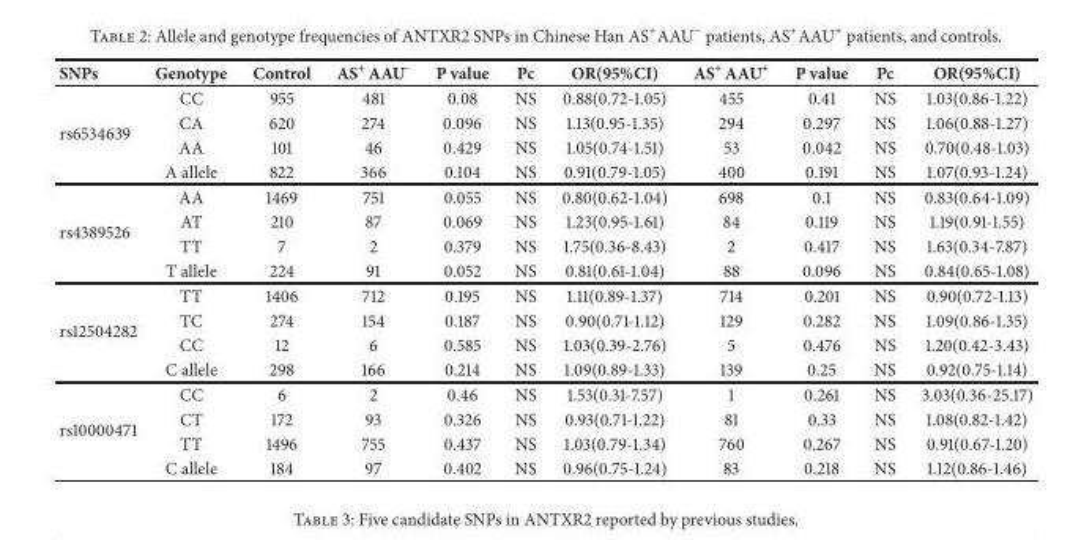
<table><thead><tr><td>SNPs</td><td>Genotype</td><td>Control</td><td>AS<sup>+</sup> AAU<sup>-</sup></td><td>P value</td><td>Pc</td><td>OR(95%CI)</td><td>AS<sup>+</sup> AAU<sup>+</sup></td><td>P value</td><td>Pc</td><td>OR(95%CI)</td></tr></thead><tbody><tr><td rowspan="4">rs6534639</td><td>CC</td><td>955</td><td>481</td><td>0.08</td><td>NS</td><td>0.88(0.72-1.05)</td><td>455</td><td>0.41</td><td>NS</td><td>1.03(0.86-1.22)</td></tr><tr><td>CA</td><td>620</td><td>274</td><td>0.096</td><td>NS</td><td>1.13(0.95-1.35)</td><td>294</td><td>0.297</td><td>NS</td><td>1.06(0.88-1.27)</td></tr><tr><td>AA</td><td>101</td><td>46</td><td>0.429</td><td>NS</td><td>1.05(0.74-1.51)</td><td>53</td><td>0.042</td><td>NS</td><td>0.70(0.48-1.03)</td></tr><tr><td>A allele</td><td>822</td><td>366</td><td>0.104</td><td>NS</td><td>0.91(0.79-1.05)</td><td>400</td><td>0.191</td><td>NS</td><td>1.07(0.93-1.24)</td></tr><tr><td rowspan="4">rs4389526</td><td>AA</td><td>1469</td><td>751</td><td>0.055</td><td>NS</td><td>0.80(0.62-1.04)</td><td>698</td><td>0.1</td><td>NS</td><td>0.83(0.64-1.09)</td></tr><tr><td>AT</td><td>210</td><td>87</td><td>0.069</td><td>NS</td><td>1.23(0.95-1.61)</td><td>84</td><td>0.119</td><td>NS</td><td>1.19(0.91-1.55)</td></tr><tr><td>TT</td><td>7</td><td>2</td><td>0.379</td><td>NS</td><td>1.75(0.36-8.43)</td><td>2</td><td>0.417</td><td>NS</td><td>1.63(0.34-7.87)</td></tr><tr><td>T allele</td><td>224</td><td>91</td><td>0.052</td><td>NS</td><td>0.81(0.61-1.04)</td><td>88</td><td>0.096</td><td>NS</td><td>0.84(0.65-1.08)</td></tr><tr><td rowspan="4">rs12504282</td><td>TT</td><td>1406</td><td>712</td><td>0.195</td><td>NS</td><td>1.11(0.89-1.37)</td><td>714</td><td>0.201</td><td>NS</td><td>0.90(0.72-1.13)</td></tr><tr><td>TC</td><td>274</td><td>154</td><td>0.187</td><td>NS</td><td>0.90(0.71-1.12)</td><td>129</td><td>0.282</td><td>NS</td><td>1.09(0.86-1.35)</td></tr><tr><td>CC</td><td>12</td><td>6</td><td>0.585</td><td>NS</td><td>1.03(0.39-2.76)</td><td>5</td><td>0.476</td><td>NS</td><td>1.20(0.42-3.43)</td></tr><tr><td>C allele</td><td>298</td><td>166</td><td>0.214</td><td>NS</td><td>1.09(0.89-1.33)</td><td>139</td><td>0.25</td><td>NS</td><td>0.92(0.75-1.14)</td></tr><tr><td rowspan="4">rs10000471</td><td>CC</td><td>6</td><td>2</td><td>0.46</td><td>NS</td><td>1.53(0.31-7.57)</td><td>1</td><td>0.261</td><td>NS</td><td>3.03(0.36-25.17)</td></tr><tr><td>CT</td><td>172</td><td>93</td><td>0.326</td><td>NS</td><td>0.93(0.71-1.22)</td><td>81</td><td>0.33</td><td>NS</td><td>1.08(0.82-1.42)</td></tr><tr><td>TT</td><td>1496</td><td>755</td><td>0.437</td><td>NS</td><td>1.03(0.79-1.34)</td><td>760</td><td>0.267</td><td>NS</td><td>0.91(0.67-1.20)</td></tr><tr><td>C allele</td><td>184</td><td>97</td><td>0.402</td><td>NS</td><td>0.96(0.75-1.24)</td><td>83</td><td>0.218</td><td>NS</td><td>1.12(0.86-1.46)</td></tr></tbody></table>